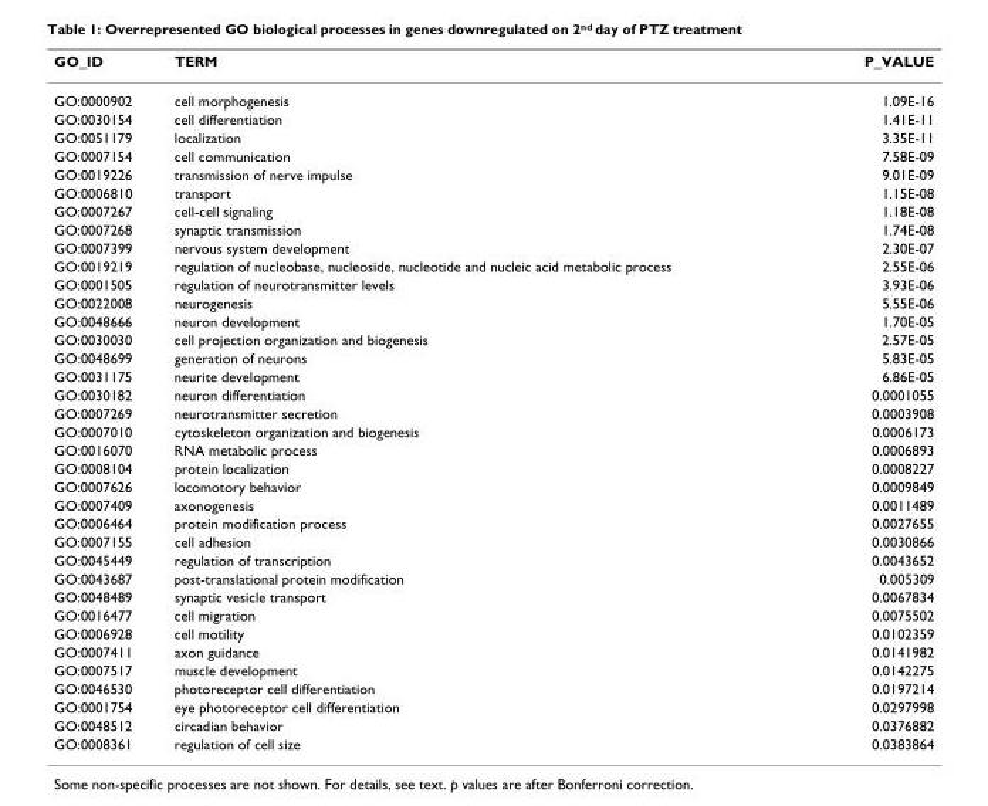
<table><thead><tr><td>GO_ID</td><td>TERM</td><td>P_VALUE</td></tr></thead><tbody><tr><td>GO:0000902</td><td>cell morphogenesis</td><td>1.09E-16</td></tr><tr><td>GO:0030154</td><td>cell differentiation</td><td>1.41E-11</td></tr><tr><td>GO:0051179</td><td>localization</td><td>3.35E-11</td></tr><tr><td>GO:0007154</td><td>cell communication</td><td>7.58E-09</td></tr><tr><td>GO:0019226</td><td>transmission of nerve impulse</td><td>9.01E-09</td></tr><tr><td>GO:0006810</td><td>transport</td><td>1.15E-08</td></tr><tr><td>GO:0007267</td><td>cell-cell signaling</td><td>1.18E-08</td></tr><tr><td>GO:0007268</td><td>synaptic transmission</td><td>1.74E-08</td></tr><tr><td>GO:0007399</td><td>nervous system development</td><td>2.30E-07</td></tr><tr><td>GO:0019219</td><td>regulation of nucleobase, nucleoside, nucleotide and nucleic acid metabolic process</td><td>2.55E-06</td></tr><tr><td>GO:0001505</td><td>regulation of neurotransmitter levels</td><td>3.93E-06</td></tr><tr><td>GO:0022008</td><td>neurogenesis</td><td>5.55E-06</td></tr><tr><td>GO:0048666</td><td>neuron development</td><td>1.70E-05</td></tr><tr><td>GO:0030030</td><td>cell projection organization and biogenesis</td><td>2.57E-05</td></tr><tr><td>GO:0048699</td><td>generation of neurons</td><td>5.83E-05</td></tr><tr><td>GO:0031175</td><td>neurite development</td><td>6.86E-05</td></tr><tr><td>GO:0030182</td><td>neuron differentiation</td><td>0.0001055</td></tr><tr><td>GO:0007269</td><td>neurotransmitter secretion</td><td>0.0003908</td></tr><tr><td>GO:0007010</td><td>cytoskeleton organization and biogenesis</td><td>0.0006173</td></tr><tr><td>GO:0016070</td><td>RNA metabolic process</td><td>0.0006893</td></tr><tr><td>GO:0008104</td><td>protein localization</td><td>0.0008227</td></tr><tr><td>GO:0007626</td><td>locomotory behavior</td><td>0.0009849</td></tr><tr><td>GO:0007409</td><td>axonogenesis</td><td>0.0011489</td></tr><tr><td>GO:0006464</td><td>protein modification process</td><td>0.0027655</td></tr><tr><td>GO:0007155</td><td>cell adhesion</td><td>0.0030866</td></tr><tr><td>GO:0045449</td><td>regulation of transcription</td><td>0.0043652</td></tr><tr><td>GO:0043687</td><td>post-translational protein modification</td><td>0.005309</td></tr><tr><td>GO:0048489</td><td>synaptic vesicle transport</td><td>0.0067834</td></tr><tr><td>GO:0016477</td><td>cell migration</td><td>0.0075502</td></tr><tr><td>GO:0006928</td><td>cell motility</td><td>0.0102359</td></tr><tr><td>GO:0007411</td><td>axon guidance</td><td>0.0141982</td></tr><tr><td>GO:0007517</td><td>muscle development</td><td>0.0142275</td></tr><tr><td>GO:0046530</td><td>photoreceptor cell differentiation</td><td>0.0197214</td></tr><tr><td>GO:0001754</td><td>eye photoreceptor cell differentiation</td><td>0.0297998</td></tr><tr><td>GO:0048512</td><td>circadian behavior</td><td>0.0376882</td></tr><tr><td>GO:0008361</td><td>regulation of cell size</td><td>0.0383864</td></tr></tbody></table>